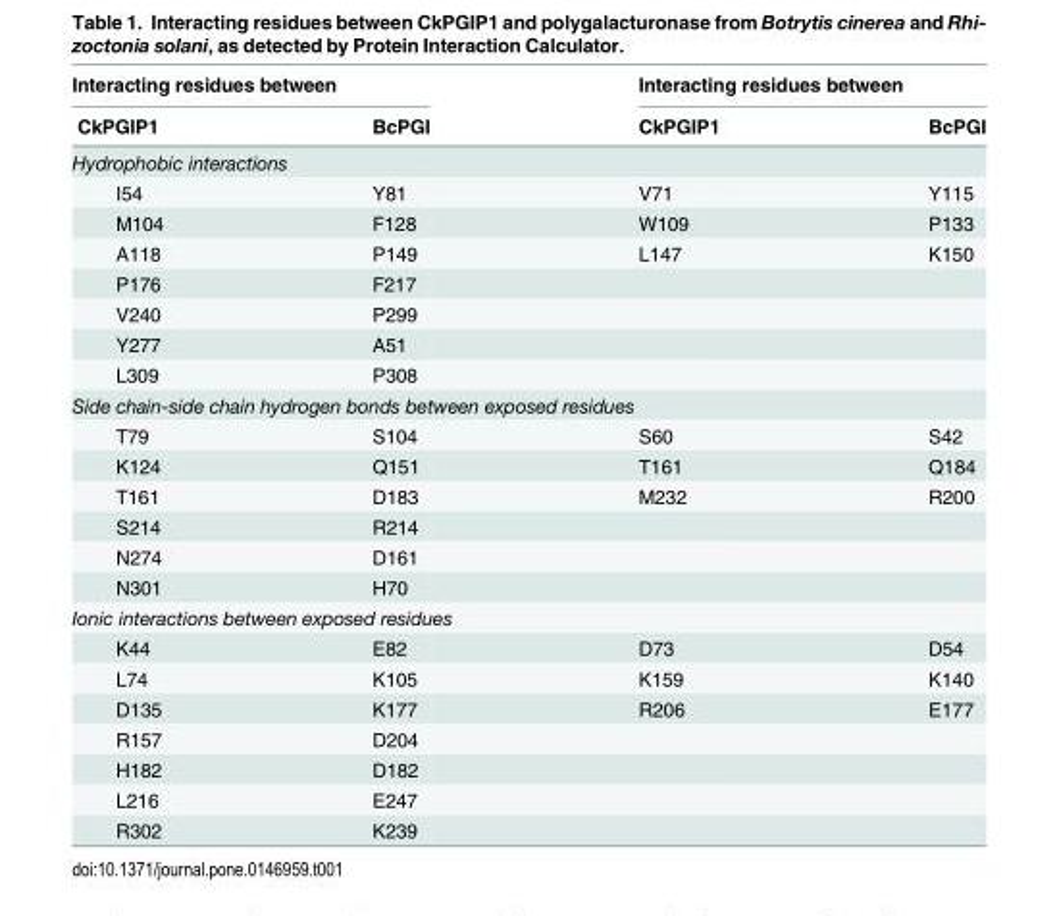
<table><thead><tr><td colspan="2">Interacting residues between</td><td colspan="2">Interacting residues between</td></tr><tr><td>CkPGIP1</td><td>BcPGI</td><td>CkPGIP1</td><td>BcPGI</td></tr></thead><tbody><tr><td colspan="4">Hydrophobic interactions</td></tr><tr><td>I54</td><td>Y81</td><td>V71</td><td>Y115</td></tr><tr><td>M104</td><td>F128</td><td>W109</td><td>P133</td></tr><tr><td>A118</td><td>P149</td><td>L147</td><td>K150</td></tr><tr><td>P176</td><td>F217</td><td></td><td></td></tr><tr><td>V240</td><td>P299</td><td></td><td></td></tr><tr><td>Y277</td><td>A51</td><td></td><td></td></tr><tr><td>L309</td><td>P308</td><td></td><td></td></tr><tr><td colspan="4">Side chain-side chain hydrogen bonds between exposed residues</td></tr><tr><td>T79</td><td>S104</td><td>S60</td><td>S42</td></tr><tr><td>K124</td><td>Q151</td><td>T161</td><td>Q184</td></tr><tr><td>T161</td><td>D183</td><td>M232</td><td>R200</td></tr><tr><td>S214</td><td>R214</td><td></td><td></td></tr><tr><td>N274</td><td>D161</td><td></td><td></td></tr><tr><td>N301</td><td>H70</td><td></td><td></td></tr><tr><td colspan="4">Ionic interactions between exposed residues</td></tr><tr><td>K44</td><td>E82</td><td>D73</td><td>D54</td></tr><tr><td>L74</td><td>K105</td><td>K159</td><td>K140</td></tr><tr><td>D135</td><td>K177</td><td>R206</td><td>E177</td></tr><tr><td>R157</td><td>D204</td><td></td><td></td></tr><tr><td>H182</td><td>D182</td><td></td><td></td></tr><tr><td>L216</td><td>E247</td><td></td><td></td></tr><tr><td>R302</td><td>K239</td><td></td><td></td></tr></tbody></table>